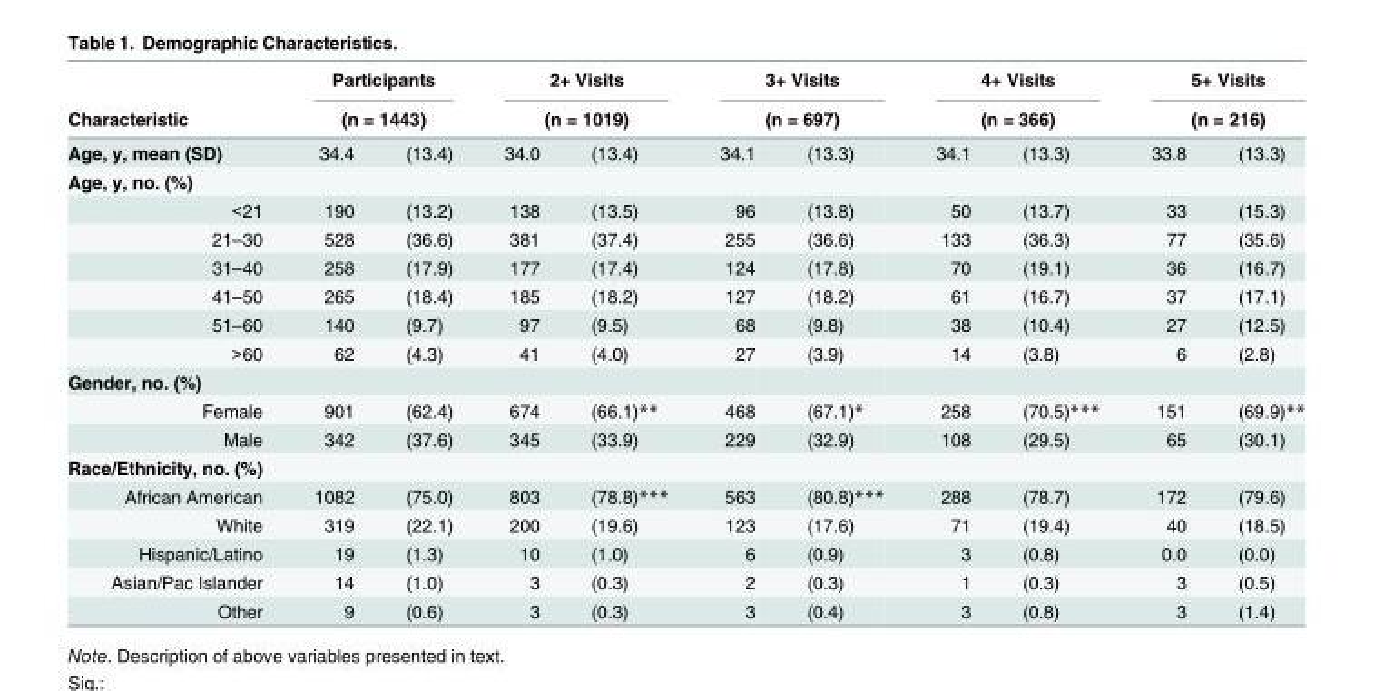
<table><thead><tr><td rowspan="3">Characteristic Age, y, mean (SD)</td><td rowspan="2" colspan="2">Participants (n = 1443)</td><td rowspan="2" colspan="2">2+ Visits (n = 1019)</td><td rowspan="2" colspan="2">3+ Visits (n = 697)</td><td rowspan="2" colspan="2">4+ Visits (n = 366)</td><td rowspan="2" colspan="2">5+ Visits (n = 216)</td></tr><tr></tr><tr><td>34.4</td><td>(13.4)</td><td>34.0</td><td>(13.4)</td><td>34.1</td><td>(13.3)</td><td>34.1</td><td>(13.3)</td><td>33.8</td><td>(13.3)</td></tr></thead><tbody><tr><td colspan="11">Age, y, no. (%)</td></tr><tr><td>&lt;21</td><td>190</td><td>(13.2)</td><td>138</td><td>(13.5)</td><td>96</td><td>(13.8)</td><td>50</td><td>(13.7)</td><td>33</td><td>(15.3)</td></tr><tr><td>21–30</td><td>528</td><td>(36.6)</td><td>381</td><td>(37.4)</td><td>255</td><td>(36.6)</td><td>133</td><td>(36.3)</td><td>77</td><td>(35.6)</td></tr><tr><td>31–40</td><td>258</td><td>(17.9)</td><td>177</td><td>(17.4)</td><td>124</td><td>(17.8)</td><td>70</td><td>(19.1)</td><td>36</td><td>(16.7)</td></tr><tr><td>41–50</td><td>265</td><td>(18.4)</td><td>185</td><td>(18.2)</td><td>127</td><td>(18.2)</td><td>61</td><td>(16.7)</td><td>37</td><td>(17.1)</td></tr><tr><td>51–60</td><td>140</td><td>(9.7)</td><td>97</td><td>(9.5)</td><td>68</td><td>(9.8)</td><td>38</td><td>(10.4)</td><td>27</td><td>(12.5)</td></tr><tr><td>&gt;60</td><td>62</td><td>(4.3)</td><td>41</td><td>(4.0)</td><td>27</td><td>(3.9)</td><td>14</td><td>(3.8)</td><td>6</td><td>(2.8)</td></tr><tr><td colspan="11">Gender, no. (%)</td></tr><tr><td>Female</td><td>901</td><td>(62.4)</td><td>674</td><td>(66.1)**</td><td>468</td><td>(67.1)*</td><td>258</td><td>(70.5)***</td><td>151</td><td>(69.9)**</td></tr><tr><td>Male</td><td>342</td><td>(37.6)</td><td>345</td><td>(33.9)</td><td>229</td><td>(32.9)</td><td>108</td><td>(29.5)</td><td>65</td><td>(30.1)</td></tr><tr><td colspan="11">Race/Ethnicity, no. (%)</td></tr><tr><td>African American</td><td>1082</td><td>(75.0)</td><td>803</td><td>(78.8)***</td><td>563</td><td>(80.8)***</td><td>288</td><td>(78.7)</td><td>172</td><td>(79.6)</td></tr><tr><td>White</td><td>319</td><td>(22.1)</td><td>200</td><td>(19.6)</td><td>123</td><td>(17.6)</td><td>71</td><td>(19.4)</td><td>40</td><td>(18.5)</td></tr><tr><td>Hispanic/Latino</td><td>19</td><td>(1.3)</td><td>10</td><td>(1.0)</td><td>6</td><td>(0.9)</td><td>3</td><td>(0.8)</td><td>0.0</td><td>(0.0)</td></tr><tr><td>Asian/Pac Islander</td><td>14</td><td>(1.0)</td><td>3</td><td>(0.3)</td><td>2</td><td>(0.3)</td><td>1</td><td>(0.3)</td><td>3</td><td>(0.5)</td></tr><tr><td>Other</td><td>9</td><td>(0.6)</td><td>3</td><td>(0.3)</td><td>3</td><td>(0.4)</td><td>3</td><td>(0.8)</td><td>3</td><td>(1.4)</td></tr></tbody></table>